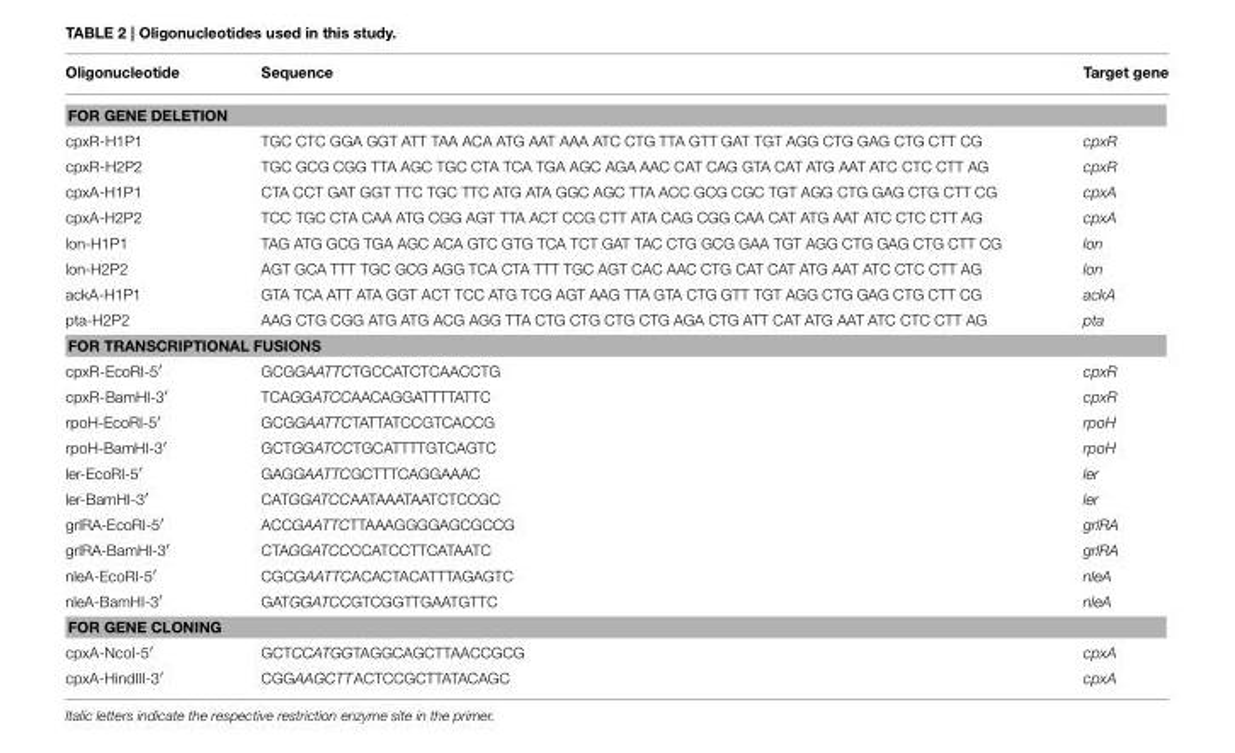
<table><thead><tr><td>Oligonucleotide</td><td>Sequence</td><td>Target gene</td></tr></thead><tbody><tr><td colspan="3">FOR GENE DELETION</td></tr><tr><td>cpxR-H1P1</td><td>TGC CTC GGA GGT ATT TAA ACA ATG AAT AAA ATC CTG TTA GTT GAT TGT AGG CTG GAG CTG CTT CG</td><td>cpxR</td></tr><tr><td>cpxR-H2P2</td><td>TGC GCG CGG TTA AGC TGC CTA TCA TGA AGC AGA AAC CAT CAG GTA CAT ATG AAT ATC CTC CTT AG</td><td>cpxR</td></tr><tr><td>cpxA-H1P1</td><td>CTA CCT GAT GGT TTC TGC TTC ATG ATA GGC AGC TTA ACC GCG CGC TGT AGG CTG GAG CTG CTT CG</td><td>cpxA</td></tr><tr><td>cpxA-H2P2</td><td>TCC TGC CTA CAA ATG CGG AGT TTA ACT CCG CTT ATA CAG CGG CAA CAT ATG AAT ATC CTC CTT AG</td><td>cpxA</td></tr><tr><td>lon-H1P1</td><td>TAG ATG GCG TGA AGC ACA GTC GTG TCA TCT GAT TAC CTG GCG GAA TGT AGG CTG GAG CTG CTT CG</td><td>lon</td></tr><tr><td>lon-H2P2</td><td>AGT GCA TTT TGC GCG AGG TCA CTA TTT TGC AGT CAC AAC CTG CAT CAT ATG AAT ATC CTC CTT AG</td><td>lon</td></tr><tr><td>ackA-H1P1</td><td>GTA TCA ATT ATA GGT ACT TCC ATG TCG AGT AAG TTA GTA CTG GTT TGT AGG CTG GAG CTG CTT CG</td><td>ackA</td></tr><tr><td>pta-H2P2</td><td>AAG CTG CGG ATG ATG ACG AGG TTA CTG CTG CTG CTG AGA CTG ATT CAT ATG AAT ATC CTC CTT AG</td><td>pta</td></tr><tr><td colspan="3">FOR TRANSCRIPTIONAL FUSIONS</td></tr><tr><td>cpxR-EcoRI-5′</td><td>GCGGAATTCTGCCATCTCAACCTG</td><td>cpxR</td></tr><tr><td>cpxR-BamHI-3′</td><td>TCAGGATCCAACAGGATTTTATTC</td><td>cpxR</td></tr><tr><td>rpoH-EcoRI-5′</td><td>GCGGAATTCTATTATCCGTCACCG</td><td>rpoH</td></tr><tr><td>rpoH-BamHI-3′</td><td>GCTGGATCCTGCATTTTGTCAGTC</td><td>rpoH</td></tr><tr><td>ler-EcoRI-5′</td><td>GAGGAATTCGCTTTCAGGAAAC</td><td>ler</td></tr><tr><td>ler-BamHI-3′</td><td>CATGGATCCAATAAATAATCTCCGC</td><td>ler</td></tr><tr><td>grlRA-EcoRI-5′</td><td>ACCGAATTCTTAAAGGGGAGCGCCG</td><td>grlRA</td></tr><tr><td>grlRA-BamHI-3′</td><td>CTAGGATCCCCATCCTTCATAATC</td><td>grlRA</td></tr><tr><td>nleA-EcoRI-5′</td><td>CGCGAATTCACACTACATTTAGAGTC</td><td>nleA</td></tr><tr><td>nleA-BamHI-3′</td><td>GATGGATCCGTCGGTTGAATGTTC</td><td>nleA</td></tr><tr><td colspan="3">FOR GENE CLONING</td></tr><tr><td>cpxA-NcoI-5′</td><td>GCTCCATGGTAGGCAGCTTAACCGCG</td><td>cpxA</td></tr><tr><td>cpxA-HindIII-3′</td><td>CGGAAGCTTACTCCGCTTATACAGC</td><td>cpxA</td></tr></tbody></table>